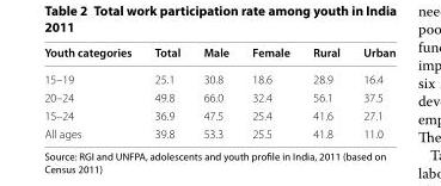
<table><thead><tr><td>Youth categories</td><td>Total</td><td>Male</td><td>Female</td><td>Rural</td><td>Urban</td></tr></thead><tbody><tr><td>15–19</td><td>25.1</td><td>30.8</td><td>18.6</td><td>28.9</td><td>16.4</td></tr><tr><td>20–24</td><td>49.8</td><td>66.0</td><td>32.4</td><td>56.1</td><td>37.5</td></tr><tr><td>15–24</td><td>36.9</td><td>47.5</td><td>25.4</td><td>41.6</td><td>27.1</td></tr><tr><td>All ages</td><td>39.8</td><td>53.3</td><td>25.5</td><td>41.8</td><td>11.0</td></tr></tbody></table>